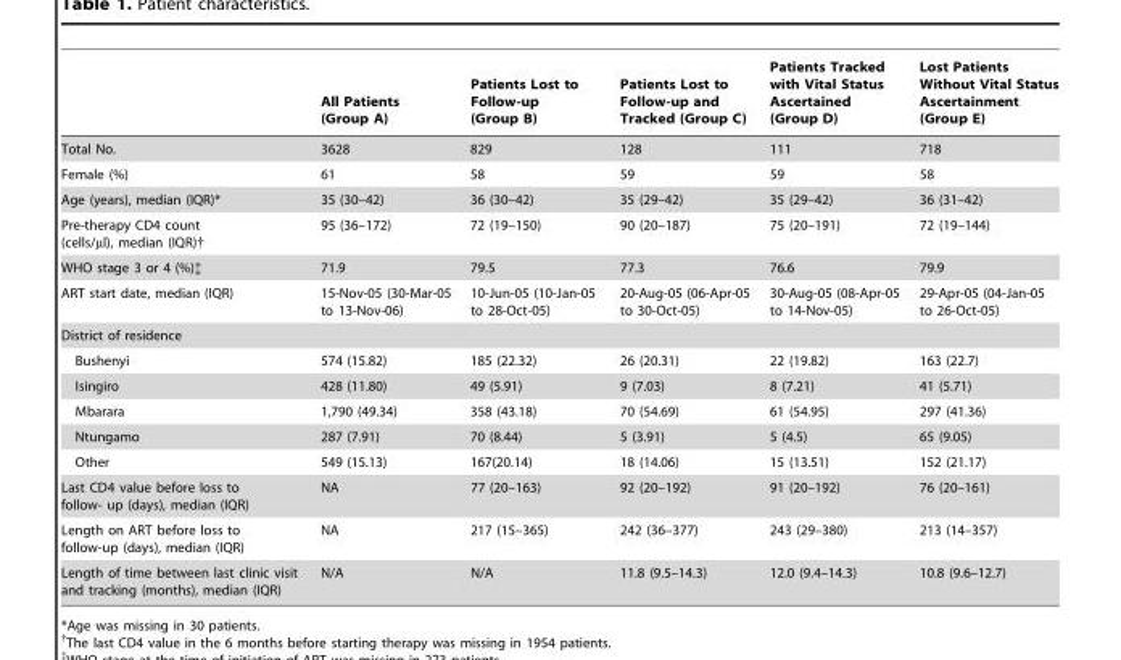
<table><thead><tr><td></td><td>All Patients (Group A)</td><td>Patients Lost to Follow-up (Group B)</td><td>Patients Lost to Follow-up and Tracked (Group C)</td><td>Patients Tracked with Vital Status Ascertained (Group D)</td><td>Lost Patients Without Vital Status Ascertainment (Group E)</td></tr></thead><tbody><tr><td>Total No.</td><td>3628</td><td>829</td><td>128</td><td>111</td><td>718</td></tr><tr><td>Female (%)</td><td>61</td><td>58</td><td>59</td><td>59</td><td>58</td></tr><tr><td>Age (years), median (IQR)*</td><td>35 (30–42)</td><td>36 (30–42)</td><td>35 (29–42)</td><td>35 (29–42)</td><td>36 (31–42)</td></tr><tr><td>Pre-therapy CD4 count (cells/µl), median (IQR)†</td><td>95 (36–172)</td><td>72 (19–150)</td><td>90 (20–187)</td><td>75 (20–191)</td><td>72 (19–144)</td></tr><tr><td>WHO stage 3 or 4 (%)‡</td><td>71.9</td><td>79.5</td><td>77.3</td><td>76.6</td><td>79.9</td></tr><tr><td>ART start date, median (IQR)</td><td>15-Nov-05 (30-Mar-05 to 13-Nov-06)</td><td>10-Jun-05 (10-Jan-05 to 28-Oct-05)</td><td>20-Aug-05 (06-Apr-05 to 30-Oct-05)</td><td>30-Aug-05 (08-Apr-05 to 14-Nov-05)</td><td>29-Apr-05 (04-Jan-05 to 26-Oct-05)</td></tr><tr><td colspan="6">District of residence</td></tr><tr><td>Bushenyi</td><td>574 (15.82)</td><td>185 (22.32)</td><td>26 (20.31)</td><td>22 (19.82)</td><td>163 (22.7)</td></tr><tr><td>Isingiro</td><td>428 (11.80)</td><td>49 (5.91)</td><td>9 (7.03)</td><td>8 (7.21)</td><td>41 (5.71)</td></tr><tr><td>Mbarara</td><td>1,790 (49.34)</td><td>358 (43.18)</td><td>70 (54.69)</td><td>61 (54.95)</td><td>297 (41.36)</td></tr><tr><td>Ntungamo</td><td>287 (7.91)</td><td>70 (8.44)</td><td>5 (3.91)</td><td>5 (4.5)</td><td>65 (9.05)</td></tr><tr><td>Other</td><td>549 (15.13)</td><td>167(20.14)</td><td>18 (14.06)</td><td>15 (13.51)</td><td>152 (21.17)</td></tr><tr><td>Last CD4 value before loss to follow- up (days), median (IQR)</td><td>NA</td><td>77 (20–163)</td><td>92 (20–192)</td><td>91 (20–192)</td><td>76 (20–161)</td></tr><tr><td>Length on ART before loss to follow-up (days), median (IQR)</td><td>NA</td><td>217 (15–365)</td><td>242 (36–377)</td><td>243 (29–380)</td><td>213 (14–357)</td></tr><tr><td>Length of time between last clinic visit and tracking (months), median (IQR)</td><td>N/A</td><td>N/A</td><td>11.8 (9.5–14.3)</td><td>12.0 (9.4–14.3)</td><td>10.8 (9.6–12.7)</td></tr></tbody></table>